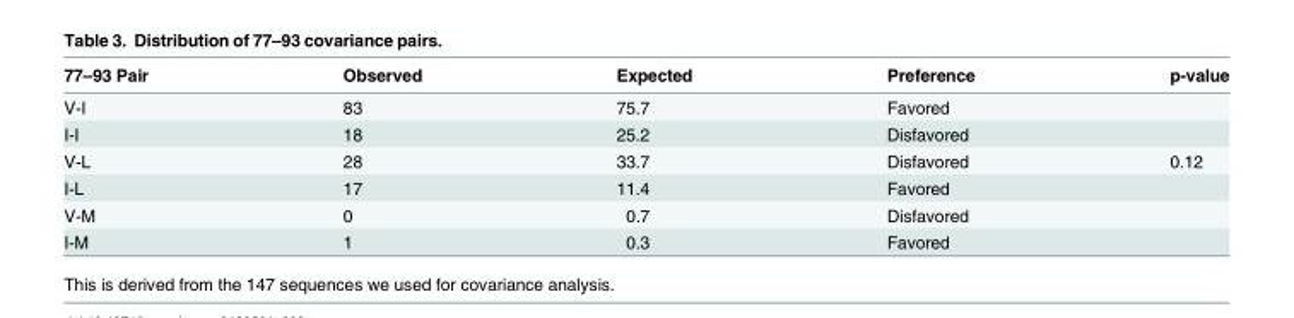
<table><thead><tr><td>77–93 Pair</td><td>Observed</td><td>Expected</td><td>Preference</td><td>p-value</td></tr></thead><tbody><tr><td>V-I</td><td>83</td><td>75.7</td><td>Favored</td><td></td></tr><tr><td>I-I</td><td>18</td><td>25.2</td><td>Disfavored</td><td></td></tr><tr><td>V-L</td><td>28</td><td>33.7</td><td>Disfavored</td><td>0.12</td></tr><tr><td>I-L</td><td>17</td><td>11.4</td><td>Favored</td><td></td></tr><tr><td>V-M</td><td>0</td><td>0.7</td><td>Disfavored</td><td></td></tr><tr><td>I-M</td><td>1</td><td>0.3</td><td>Favored</td><td></td></tr></tbody></table>